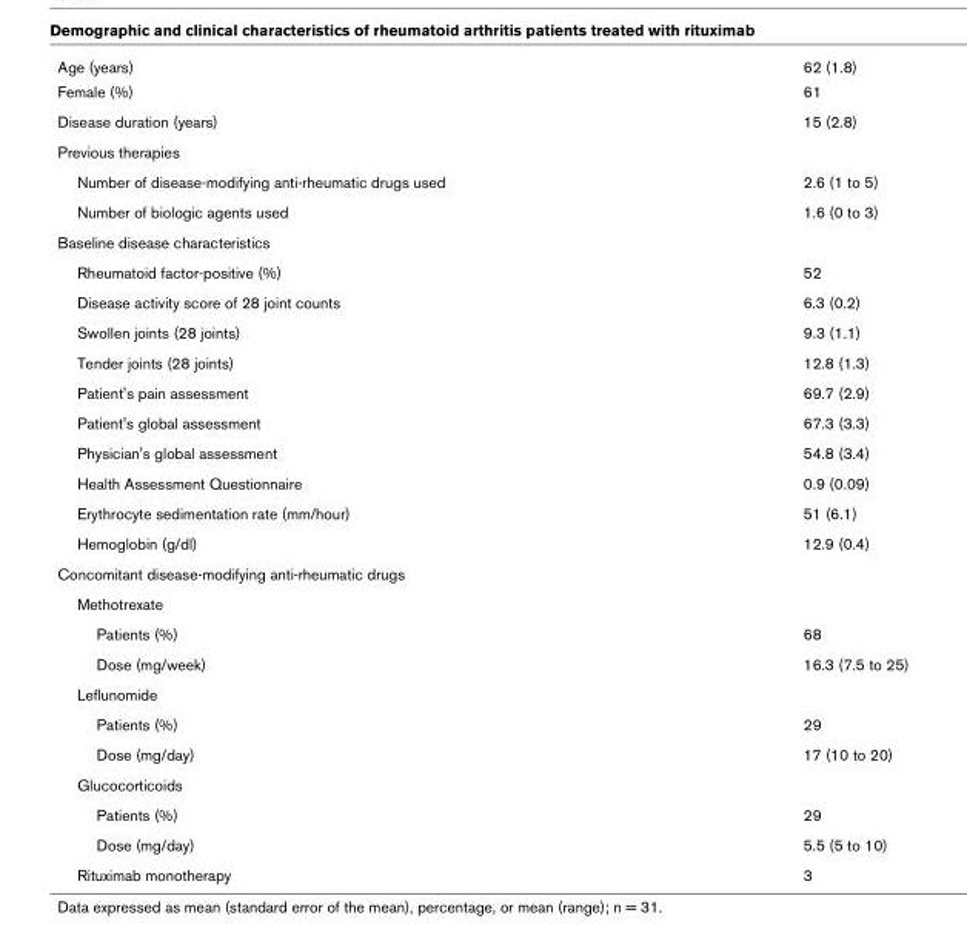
<table><tbody><tr><td>Age (years)</td><td>62 (1.8)</td></tr><tr><td>Female (%)</td><td>61</td></tr><tr><td>Disease duration (years)</td><td>15 (2.8)</td></tr><tr><td colspan="2">Previous therapies</td></tr><tr><td>Number of disease-modifying anti-rheumatic drugs used</td><td>2.6 (1 to 5)</td></tr><tr><td>Number of biologic agents used</td><td>1.6 (0 to 3)</td></tr><tr><td colspan="2">Baseline disease characteristics</td></tr><tr><td>Rheumatoid factor-positive (%)</td><td>52</td></tr><tr><td>Disease activity score of 28 joint counts</td><td>6.3 (0.2)</td></tr><tr><td>Swollen joints (28 joints)</td><td>9.3 (1.1)</td></tr><tr><td>Tender joints (28 joints)</td><td>12.8 (1.3)</td></tr><tr><td>Patient&#x27;s pain assessment</td><td>69.7 (2.9)</td></tr><tr><td>Patient&#x27;s global assessment</td><td>67.3 (3.3)</td></tr><tr><td>Physician&#x27;s global assessment</td><td>54.8 (3.4)</td></tr><tr><td>Health Assessment Questionnaire</td><td>0.9 (0.09)</td></tr><tr><td>Erythrocyte sedimentation rate (mm/hour)</td><td>51 (6.1)</td></tr><tr><td>Hemoglobin (g/dl)</td><td>12.9 (0.4)</td></tr><tr><td colspan="2">Concomitant disease-modifying anti-rheumatic drugs</td></tr><tr><td colspan="2">Methotrexate</td></tr><tr><td>Patients (%)</td><td>68</td></tr><tr><td>Dose (mg/week)</td><td>16.3 (7.5 to 25)</td></tr><tr><td colspan="2">Leflunomide</td></tr><tr><td>Patients (%)</td><td>29</td></tr><tr><td>Dose (mg/day)</td><td>17 (10 to 20)</td></tr><tr><td colspan="2">Glucocorticoids</td></tr><tr><td>Patients (%)</td><td>29</td></tr><tr><td>Dose (mg/day)</td><td>5.5 (5 to 10)</td></tr><tr><td>Rituximab monotherapy</td><td>3</td></tr></tbody></table>